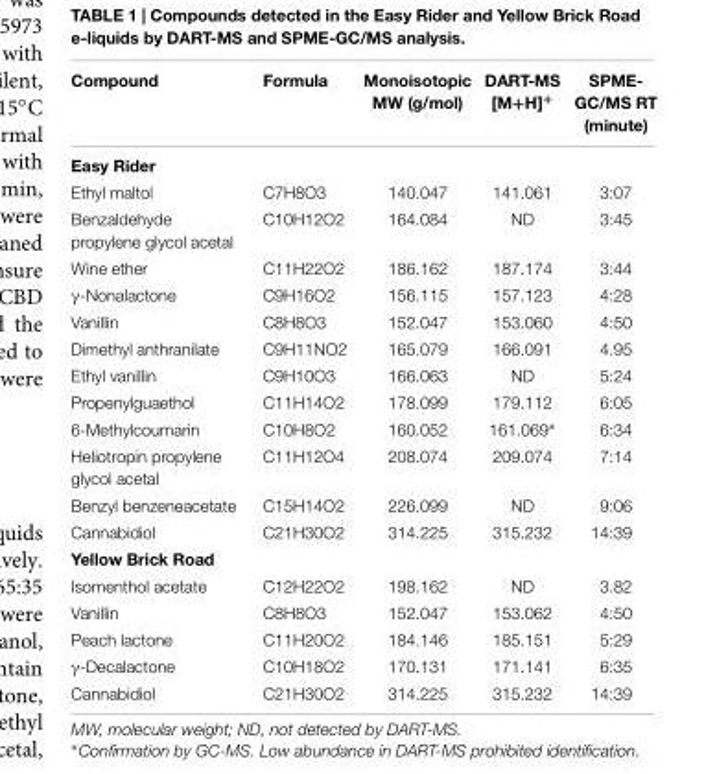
<table><thead><tr><td>Compound</td><td>Formula</td><td>Monoisotopic MW (g/mol)</td><td>DART-MS [M+H]<sup>+</sup></td><td>SPME- GC/MS RT (minute)</td></tr></thead><tbody><tr><td colspan="5">Easy Rider</td></tr><tr><td>Ethyl maltol</td><td>C7H8O3</td><td>140.047</td><td>141.061</td><td>3:07</td></tr><tr><td>Benzaldehyde propylene glycol acetal</td><td>C10H12O2</td><td>164.084</td><td>ND</td><td>3:45</td></tr><tr><td>Wine ether</td><td>C11H22O2</td><td>186.162</td><td>187.174</td><td>3:44</td></tr><tr><td>γ-Nonalactone</td><td>C9H16O2</td><td>156.115</td><td>157.123</td><td>4:28</td></tr><tr><td>Vanillin</td><td>C8H8O3</td><td>152.047</td><td>153.060</td><td>4:50</td></tr><tr><td>Dimethyl anthranilate</td><td>C9H11NO2</td><td>165.079</td><td>166.091</td><td>4.95</td></tr><tr><td>Ethyl vanillin</td><td>C9H10O3</td><td>166.063</td><td>ND</td><td>5:24</td></tr><tr><td>Propenylguaethol</td><td>C11H14O2</td><td>178.099</td><td>179.112</td><td>6:05</td></tr><tr><td>6-Methylcoumarin</td><td>C10H8O2</td><td>160.052</td><td>161.069∗</td><td>6:34</td></tr><tr><td>Heliotropin propylene glycol acetal</td><td>C11H12O4</td><td>208.074</td><td>209.074</td><td>7:14</td></tr><tr><td>Benzyl benzeneacetate</td><td>C15H14O2</td><td>226.099</td><td>ND</td><td>9:06</td></tr><tr><td>Cannabidiol</td><td>C21H30O2</td><td>314.225</td><td>315.232</td><td>14:39</td></tr><tr><td colspan="5">Yellow Brick Road</td></tr><tr><td>Isomenthol acetate</td><td>C12H22O2</td><td>198.162</td><td>ND</td><td>3.82</td></tr><tr><td>Vanillin</td><td>C8H8O3</td><td>152.047</td><td>153.062</td><td>4:50</td></tr><tr><td>Peach lactone</td><td>C11H20O2</td><td>184.146</td><td>185.151</td><td>5:29</td></tr><tr><td>γ-Decalactone</td><td>C10H18O2</td><td>170.131</td><td>171.141</td><td>6:35</td></tr><tr><td>Cannabidiol</td><td>C21H30O2</td><td>314.225</td><td>315.232</td><td>14:39</td></tr></tbody></table>